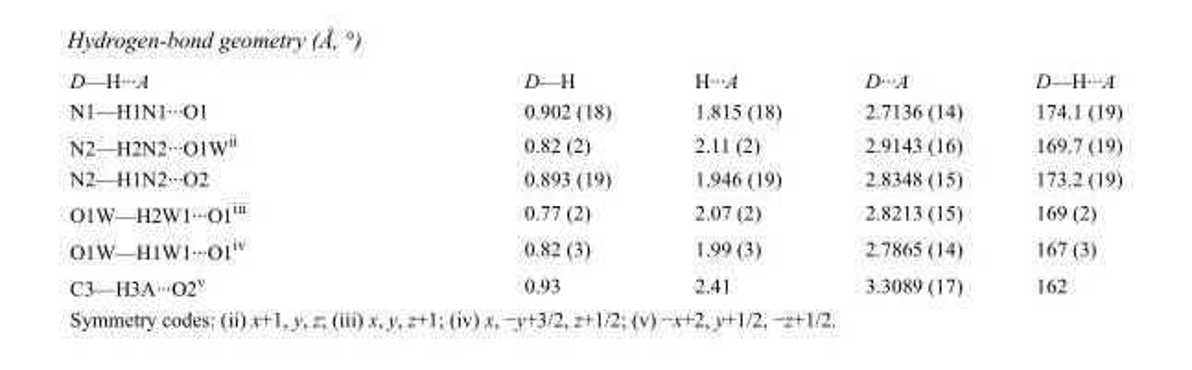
<table><tbody><tr><td>D—H···A</td><td>D—H</td><td>H···A</td><td>D···A</td><td>D—H···A</td></tr><tr><td>N1—H1N1···O1</td><td>0.902 (18)</td><td>1.815 (18)</td><td>2.7136 (14)</td><td>174.1 (19)</td></tr><tr><td>N2—H2N2···O1W<sup>ii</sup></td><td>0.82 (2)</td><td>2.11 (2)</td><td>2.9143 (16)</td><td>169.7 (19)</td></tr><tr><td>N2—H1N2···O2</td><td>0.893 (19)</td><td>1.946 (19)</td><td>2.8348 (15)</td><td>173.2 (19)</td></tr><tr><td>O1W—H2W1···O1<sup>iii</sup></td><td>0.77 (2)</td><td>2.07 (2)</td><td>2.8213 (15)</td><td>169 (2)</td></tr><tr><td>O1W—H1W1···O1<sup>iv</sup></td><td>0.82 (3)</td><td>1.99 (3)</td><td>2.7865 (14)</td><td>167 (3)</td></tr><tr><td>C3—H3A···O2<sup>v</sup></td><td>0.93</td><td>2.41</td><td>3.3089 (17)</td><td>162</td></tr></tbody></table>